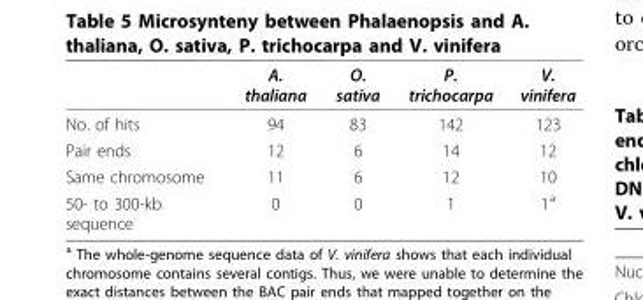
<table><thead><tr><td></td><td>A. thaliana</td><td>O. sativa</td><td>P. trichocarpa</td><td>V. vinifera</td></tr></thead><tbody><tr><td>No. of hits</td><td>94</td><td>83</td><td>142</td><td>123</td></tr><tr><td>Pair ends</td><td>12</td><td>6</td><td>14</td><td>12</td></tr><tr><td>Same chromosome</td><td>11</td><td>6</td><td>12</td><td>10</td></tr><tr><td>50- to 300-kb sequence</td><td>0</td><td>0</td><td>1</td><td>1<sup>a</sup></td></tr></tbody></table>